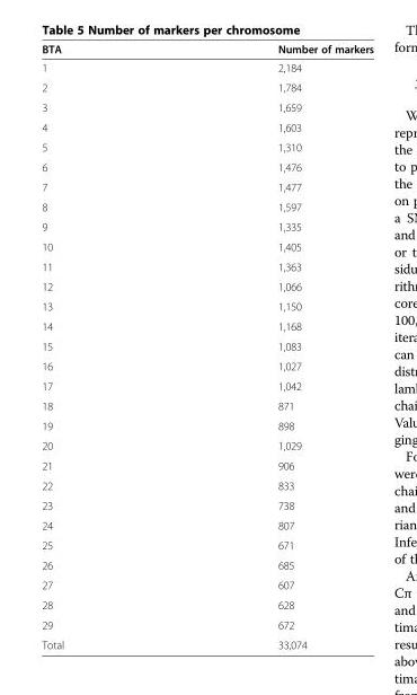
<table><thead><tr><td>BTA</td><td>Number of markers</td></tr></thead><tbody><tr><td>1</td><td>2,184</td></tr><tr><td>2</td><td>1,784</td></tr><tr><td>3</td><td>1,659</td></tr><tr><td>4</td><td>1,603</td></tr><tr><td>5</td><td>1,310</td></tr><tr><td>6</td><td>1,476</td></tr><tr><td>7</td><td>1,477</td></tr><tr><td>8</td><td>1,597</td></tr><tr><td>9</td><td>1,335</td></tr><tr><td>10</td><td>1,405</td></tr><tr><td>11</td><td>1,363</td></tr><tr><td>12</td><td>1,066</td></tr><tr><td>13</td><td>1,150</td></tr><tr><td>14</td><td>1,168</td></tr><tr><td>15</td><td>1,083</td></tr><tr><td>16</td><td>1,027</td></tr><tr><td>17</td><td>1,042</td></tr><tr><td>18</td><td>871</td></tr><tr><td>19</td><td>898</td></tr><tr><td>20</td><td>1,029</td></tr><tr><td>21</td><td>906</td></tr><tr><td>22</td><td>833</td></tr><tr><td>23</td><td>738</td></tr><tr><td>24</td><td>807</td></tr><tr><td>25</td><td>671</td></tr><tr><td>26</td><td>685</td></tr><tr><td>27</td><td>607</td></tr><tr><td>28</td><td>628</td></tr><tr><td>29</td><td>672</td></tr><tr><td>Total</td><td>33,074</td></tr></tbody></table>